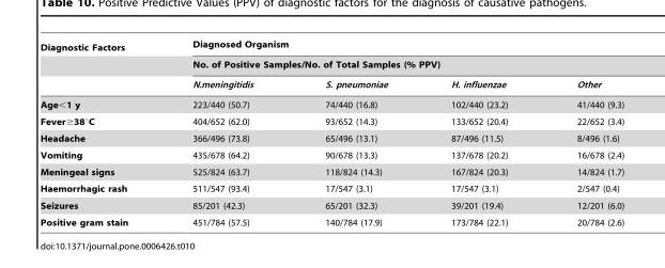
<table><thead><tr><td rowspan="3">Diagnostic Factors</td><td rowspan="2" colspan="4">Diagnosed Organism No. of Positive Samples/No. of Total Samples (% PPV)</td></tr><tr></tr><tr><td>N.meningitidis</td><td>S. pneumoniae</td><td>H. influenzae</td><td>Other</td></tr></thead><tbody><tr><td>Age&lt;1 y</td><td>223/440 (50.7)</td><td>74/440 (16.8)</td><td>102/440 (23.2)</td><td>41/440 (9.3)</td></tr><tr><td>Fever≥38°C</td><td>404/652 (62.0)</td><td>93/652 (14.3)</td><td>133/652 (20.4)</td><td>22/652 (3.4)</td></tr><tr><td>Headache</td><td>366/496 (73.8)</td><td>65/496 (13.1)</td><td>87/496 (11.5)</td><td>8/496 (1.6)</td></tr><tr><td>Vomiting</td><td>435/678 (64.2)</td><td>90/678 (13.3)</td><td>137/678 (20.2)</td><td>16/678 (2.4)</td></tr><tr><td>Meningeal signs</td><td>525/824 (63.7)</td><td>118/824 (14.3)</td><td>167/824 (20.3)</td><td>14/824 (1.7)</td></tr><tr><td>Haemorrhagic rash</td><td>511/547 (93.4)</td><td>17/547 (3.1)</td><td>17/547 (3.1)</td><td>2/547 (0.4)</td></tr><tr><td>Seizures</td><td>85/201 (42.3)</td><td>65/201 (32.3)</td><td>39/201 (19.4)</td><td>12/201 (6.0)</td></tr><tr><td>Positive gram stain</td><td>451/784 (57.5)</td><td>140/784 (17.9)</td><td>173/784 (22.1)</td><td>20/784 (2.6)</td></tr></tbody></table>